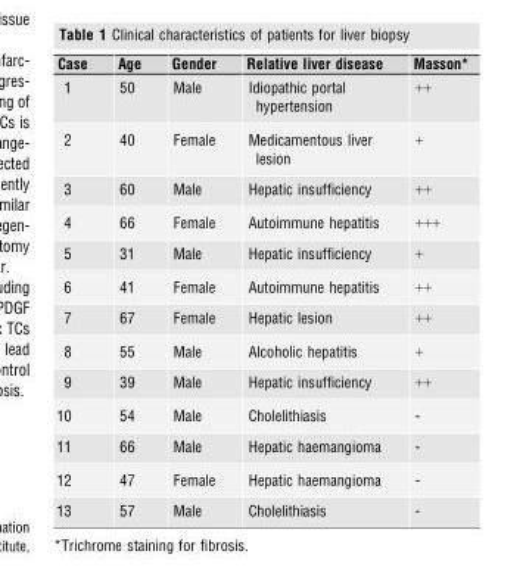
<table><thead><tr><td>Case</td><td>Age</td><td>Gender</td><td>Relative liver disease</td><td>Masson*</td></tr></thead><tbody><tr><td>1</td><td>50</td><td>Male</td><td>Idiopathic portal hypertension</td><td>++</td></tr><tr><td>2</td><td>40</td><td>Female</td><td>Medicamentous liver lesion</td><td>+</td></tr><tr><td>3</td><td>60</td><td>Male</td><td>Hepatic insufficiency</td><td>++</td></tr><tr><td>4</td><td>66</td><td>Female</td><td>Autoimmune hepatitis</td><td>+++</td></tr><tr><td>5</td><td>31</td><td>Male</td><td>Hepatic insufficiency</td><td>+</td></tr><tr><td>6</td><td>41</td><td>Female</td><td>Autoimmune hepatitis</td><td>++</td></tr><tr><td>7</td><td>67</td><td>Female</td><td>Hepatic lesion</td><td>++</td></tr><tr><td>8</td><td>55</td><td>Male</td><td>Alcoholic hepatitis</td><td>+</td></tr><tr><td>9</td><td>39</td><td>Male</td><td>Hepatic insufficiency</td><td>++</td></tr><tr><td>10</td><td>54</td><td>Male</td><td>Cholelithiasis</td><td>-</td></tr><tr><td>11</td><td>66</td><td>Male</td><td>Hepatic haemangioma</td><td>-</td></tr><tr><td>12</td><td>47</td><td>Female</td><td>Hepatic haemangioma</td><td>-</td></tr><tr><td>13</td><td>57</td><td>Male</td><td>Cholelithiasis</td><td>-</td></tr></tbody></table>